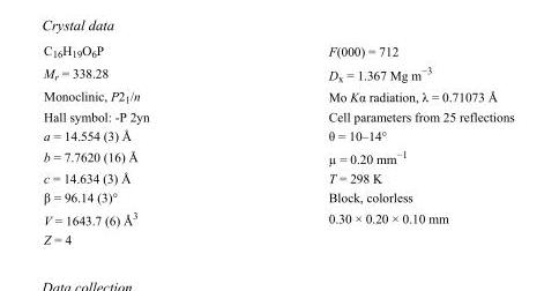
<table><tbody><tr><td>C<sub>16</sub>H<sub>19</sub>O<sub>6</sub>P</td><td>F(000) = 712</td></tr><tr><td>M<sub>r</sub> = 338.28</td><td>D<sub>x</sub> = 1.367 Mg m<sup>−3</sup></td></tr><tr><td>Monoclinic, P2<sub>1</sub>/n</td><td>Mo Kα radiation, λ = 0.71073 Å</td></tr><tr><td>Hall symbol: -P 2yn</td><td>Cell parameters from 25 reflections</td></tr><tr><td>a = 14.554 (3) Å</td><td>θ = 10–14°</td></tr><tr><td>b = 7.7620 (16) Å</td><td>µ = 0.20 mm<sup>−1</sup></td></tr><tr><td>c = 14.634 (3) Å</td><td>T = 298 K</td></tr><tr><td>β = 96.14 (3)°</td><td>Block, colorless</td></tr><tr><td>V = 1643.7 (6) Å<sup>3</sup></td><td>0.30 × 0.20 × 0.10 mm</td></tr><tr><td>Z = 4</td><td></td></tr></tbody></table>